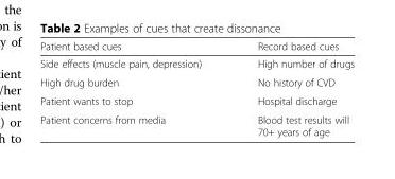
<table><thead><tr><td>Patient based cues</td><td>Record based cues</td></tr></thead><tbody><tr><td>Side effects (muscle pain, depression)</td><td>High number of drugs</td></tr><tr><td>High drug burden</td><td>No history of CVD</td></tr><tr><td>Patient wants to stop</td><td>Hospital discharge</td></tr><tr><td>Patient concerns from media</td><td>Blood test results will 70+ years of age</td></tr></tbody></table>